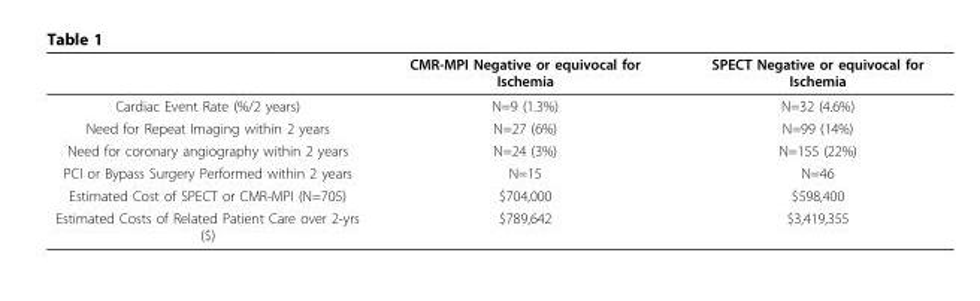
<table><thead><tr><td></td><td>CMR-MPI Negative or equivocal for Ischemia</td><td>SPECT Negative or equivocal for Ischemia</td></tr></thead><tbody><tr><td>Cardiac Event Rate (%/2 years)</td><td>N=9 (1.3%)</td><td>N=32 (4.6%)</td></tr><tr><td>Need for Repeat Imaging within 2 years</td><td>N=27 (6%)</td><td>N=99 (14%)</td></tr><tr><td>Need for coronary angiography within 2 years</td><td>N=24 (3%)</td><td>N=155 (22%)</td></tr><tr><td>PCI or Bypass Surgery Performed within 2 years</td><td>N=15</td><td>N=46</td></tr><tr><td>Estimated Cost of SPECT or CMR-MPI (N=705)</td><td>$704,000</td><td>$598,400</td></tr><tr><td>Estimated Costs of Related Patient Care over 2-yrs ($)</td><td>$789,642</td><td>$3,419,355</td></tr></tbody></table>